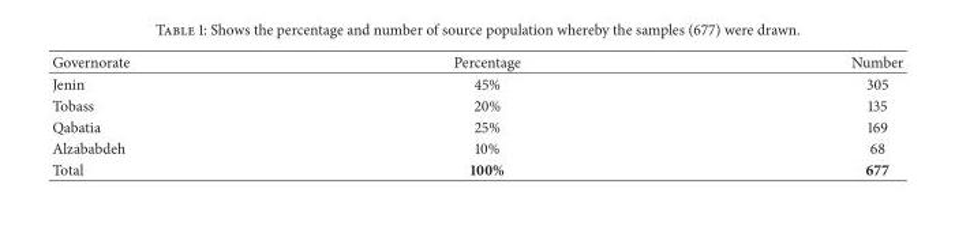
<table><thead><tr><td>Governorate</td><td>Percentage</td><td>Number</td></tr></thead><tbody><tr><td>Jenin</td><td>45%</td><td>305</td></tr><tr><td>Tobass</td><td>20%</td><td>135</td></tr><tr><td>Qabatia</td><td>25%</td><td>169</td></tr><tr><td>Alzababdeh</td><td>10%</td><td>68</td></tr><tr><td>Total</td><td>100%</td><td>677</td></tr></tbody></table>